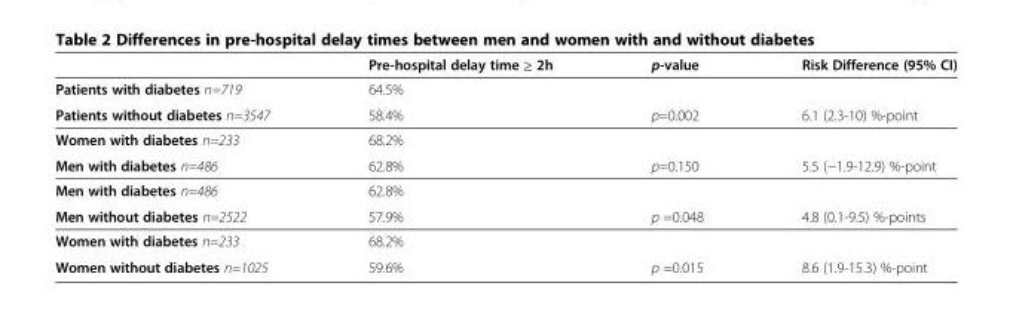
<table><thead><tr><td></td><td>Pre-hospital delay time ≥ 2h</td><td>p-value</td><td>Risk Difference (95% CI)</td></tr></thead><tbody><tr><td>Patients with diabetes n=719</td><td>64.5%</td><td></td><td></td></tr><tr><td>Patients without diabetes n=3547</td><td>58.4%</td><td>p=0.002</td><td>6.1 (2.3-10) %-point</td></tr><tr><td>Women with diabetes n=233</td><td>68.2%</td><td></td><td></td></tr><tr><td>Men with diabetes n=486</td><td>62.8%</td><td>p=0.150</td><td>5.5 (−1.9-12.9) %-point</td></tr><tr><td>Men with diabetes n=486</td><td>62.8%</td><td></td><td></td></tr><tr><td>Men without diabetes n=2522</td><td>57.9%</td><td>p =0.048</td><td>4.8 (0.1-9.5) %-points</td></tr><tr><td>Women with diabetes n=233</td><td>68.2%</td><td></td><td></td></tr><tr><td>Women without diabetes n=1025</td><td>59.6%</td><td>p =0.015</td><td>8.6 (1.9-15.3) %-point</td></tr></tbody></table>